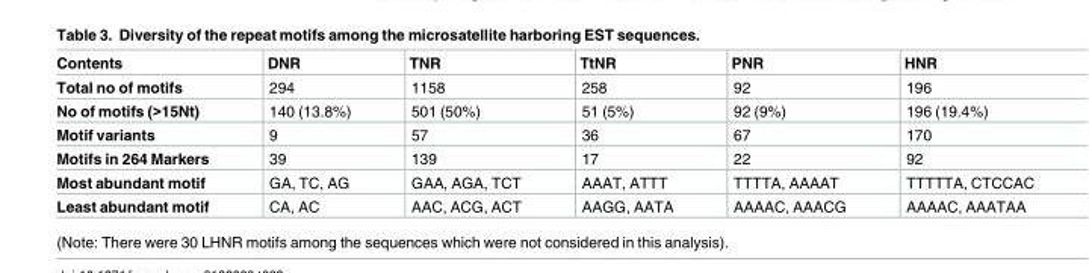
<table><thead><tr><td>Contents</td><td>DNR</td><td>TNR</td><td>TtNR</td><td>PNR</td><td>HNR</td></tr></thead><tbody><tr><td>Total no of motifs</td><td>294</td><td>1158</td><td>258</td><td>92</td><td>196</td></tr><tr><td>No of motifs (&gt;15Nt)</td><td>140 (13.8%)</td><td>501 (50%)</td><td>51 (5%)</td><td>92 (9%)</td><td>196 (19.4%)</td></tr><tr><td>Motif variants</td><td>9</td><td>57</td><td>36</td><td>67</td><td>170</td></tr><tr><td>Motifs in 264 Markers</td><td>39</td><td>139</td><td>17</td><td>22</td><td>92</td></tr><tr><td>Most abundant motif</td><td>GA, TC, AG</td><td>GAA, AGA, TCT</td><td>AAAT, ATTT</td><td>TTTTA, AAAAT</td><td>TTTTTA, CTCCAC</td></tr><tr><td>Least abundant motif</td><td>CA, AC</td><td>AAC, ACG, ACT</td><td>AAGG, AATA</td><td>AAAAC, AAACG</td><td>AAAAC, AAATAA</td></tr></tbody></table>